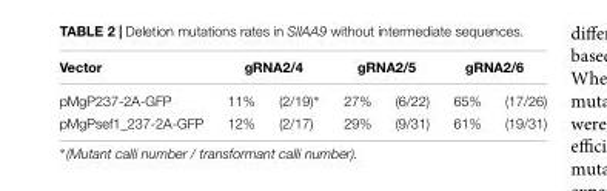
<table><thead><tr><td rowspan="2">Vector pMgP237-2A-GFP</td><td colspan="2">gRNA2/4</td><td colspan="2">gRNA2/5</td><td colspan="2">gRNA2/6</td></tr><tr><td>11%</td><td>(2/19)∗</td><td>27%</td><td>(6/22)</td><td>65%</td><td>(17/26)</td></tr></thead><tbody><tr><td>pMgPsef1_237-2A-GFP</td><td>12%</td><td>(2/17)</td><td>29%</td><td>(9/31)</td><td>61%</td><td>(19/31)</td></tr></tbody></table>